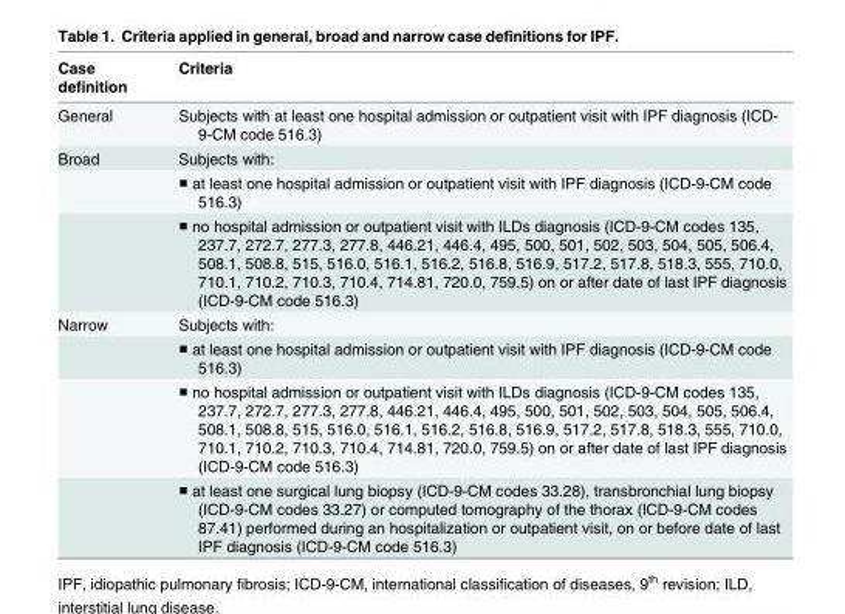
<table><thead><tr><td>Case definition</td><td>Criteria</td></tr></thead><tbody><tr><td>General</td><td>Subjects with at least one hospital admission or outpatient visit with IPF diagnosis (ICD- 9-CM code 516.3)</td></tr><tr><td rowspan="3">Broad</td><td>Subjects with:</td></tr><tr><td>■ at least one hospital admission or outpatient visit with IPF diagnosis (ICD-9-CM code 516.3)</td></tr><tr><td>■ no hospital admission or outpatient visit with ILDs diagnosis (ICD-9-CM codes 135, 237.7, 272.7, 277.3, 277.8, 446.21, 446.4, 495, 500, 501, 502, 503, 504, 505, 506.4, 508.1, 508.8, 515, 516.0, 516.1, 516.2, 516.8, 516.9, 517.2, 517.8, 518.3, 555, 710.0, 710.1, 710.2, 710.3, 710.4, 714.81, 720.0, 759.5) on or after date of last IPF diagnosis (ICD-9-CM code 516.3)</td></tr><tr><td rowspan="4">Narrow</td><td>Subjects with:</td></tr><tr><td>■ at least one hospital admission or outpatient visit with IPF diagnosis (ICD-9-CM code 516.3)</td></tr><tr><td>■ no hospital admission or outpatient visit with ILDs diagnosis (ICD-9-CM codes 135, 237.7, 272.7, 277.3, 277.8, 446.21, 446.4, 495, 500, 501, 502, 503, 504, 505, 506.4, 508.1, 508.8, 515, 516.0, 516.1, 516.2, 516.8, 516.9, 517.2, 517.8, 518.3, 555, 710.0, 710.1, 710.2, 710.3, 710.4, 714.81, 720.0, 759.5) on or after date of last IPF diagnosis (ICD-9-CM code 516.3)</td></tr><tr><td>■ at least one surgical lung biopsy (ICD-9-CM codes 33.28), transbronchial lung biopsy (ICD-9-CM codes 33.27) or computed tomography of the thorax (ICD-9-CM codes 87.41) performed during an hospitalization or outpatient visit, on or before date of last IPF diagnosis (ICD-9-CM code 516.3)</td></tr></tbody></table>